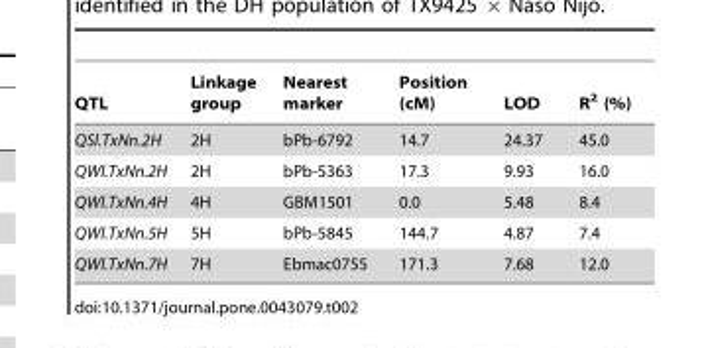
<table><thead><tr><td>QTL</td><td>Linkage group</td><td>Nearest marker</td><td>Position (cM)</td><td>LOD</td><td>R<sup>2</sup> (%)</td></tr></thead><tbody><tr><td>QSl.TxNn.2H</td><td>2H</td><td>bPb-6792</td><td>14.7</td><td>24.37</td><td>45.0</td></tr><tr><td>QWl.TxNn.2H</td><td>2H</td><td>bPb-5363</td><td>17.3</td><td>9.93</td><td>16.0</td></tr><tr><td>QWl.TxNn.4H</td><td>4H</td><td>GBM1501</td><td>0.0</td><td>5.48</td><td>8.4</td></tr><tr><td>QWl.TxNn.5H</td><td>5H</td><td>bPb-5845</td><td>144.7</td><td>4.87</td><td>7.4</td></tr><tr><td>QWl.TxNn.7H</td><td>7H</td><td>Ebmac0755</td><td>171.3</td><td>7.68</td><td>12.0</td></tr></tbody></table>